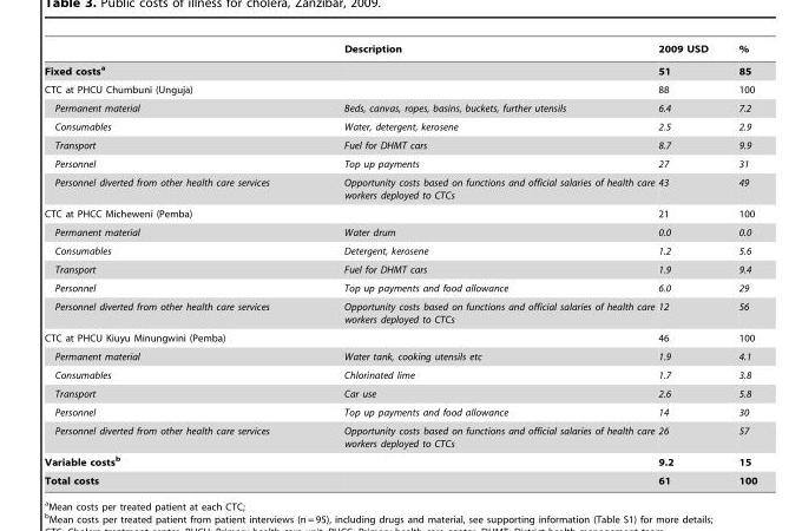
<table><thead><tr><td></td><td>Description</td><td>2009 USD</td><td>%</td></tr></thead><tbody><tr><td>Fixed costsa</td><td></td><td>51</td><td>85</td></tr><tr><td>CTC at PHCU Chumbuni (Unguja)</td><td></td><td>88</td><td>100</td></tr><tr><td>Permanent material</td><td>Beds, canvas, ropes, basins, buckets, further utensils</td><td>6.4</td><td>7.2</td></tr><tr><td>Consumables</td><td>Water, detergent, kerosene</td><td>2.5</td><td>2.9</td></tr><tr><td>Transport</td><td>Fuel for DHMT cars</td><td>8.7</td><td>9.9</td></tr><tr><td>Personnel</td><td>Top up payments</td><td>27</td><td>31</td></tr><tr><td>Personnel diverted from other health care services</td><td>Opportunity costs based on functions and official salaries of health care workers deployed to CTCs</td><td>43</td><td>49</td></tr><tr><td>CTC at PHCC Micheweni (Pemba)</td><td></td><td>21</td><td>100</td></tr><tr><td>Permanent material</td><td>Water drum</td><td>0.0</td><td>0.0</td></tr><tr><td>Consumables</td><td>Detergent, kerosene</td><td>1.2</td><td>5.6</td></tr><tr><td>Transport</td><td>Fuel for DHMT cars</td><td>1.9</td><td>9.4</td></tr><tr><td>Personnel</td><td>Top up payments and food allowance</td><td>6.0</td><td>29</td></tr><tr><td>Personnel diverted from other health care services</td><td>Opportunity costs based on functions and official salaries of health care workers deployed to CTCs</td><td>12</td><td>56</td></tr><tr><td>CTC at PHCU Kiuyu Minungwini (Pemba)</td><td></td><td>46</td><td>100</td></tr><tr><td>Permanent material</td><td>Water tank, cooking utensils etc</td><td>1.9</td><td>4.1</td></tr><tr><td>Consumables</td><td>Chlorinated lime</td><td>1.7</td><td>3.8</td></tr><tr><td>Transport</td><td>Car use</td><td>2.6</td><td>5.8</td></tr><tr><td>Personnel</td><td>Top up payments and food allowance</td><td>14</td><td>30</td></tr><tr><td>Personnel diverted from other health care services</td><td>Opportunity costs based on functions and official salaries of health care workers deployed to CTCs</td><td>26</td><td>57</td></tr><tr><td>Variable costsb</td><td></td><td>9.2</td><td>15</td></tr><tr><td>Total costs</td><td></td><td>61</td><td>100</td></tr></tbody></table>